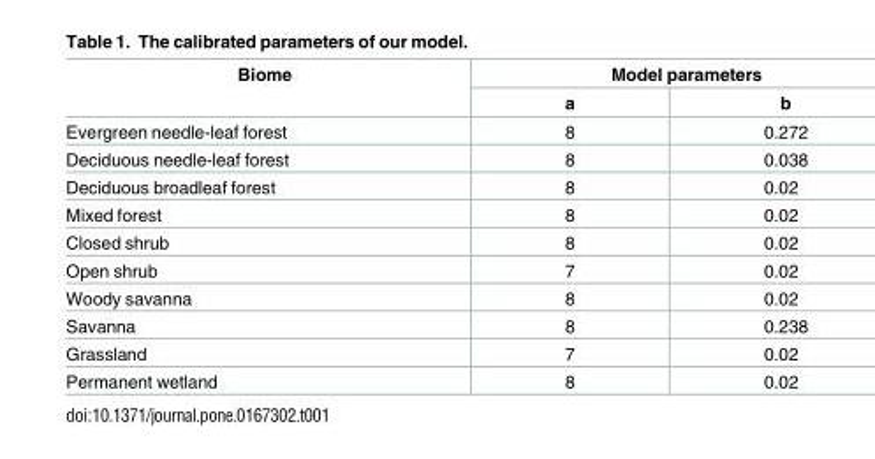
<table><thead><tr><td rowspan="2">Biome</td><td colspan="2">Model parameters</td></tr><tr><td>a</td><td>b</td></tr></thead><tbody><tr><td>Evergreen needle-leaf forest</td><td>8</td><td>0.272</td></tr><tr><td>Deciduous needle-leaf forest</td><td>8</td><td>0.038</td></tr><tr><td>Deciduous broadleaf forest</td><td>8</td><td>0.02</td></tr><tr><td>Mixed forest</td><td>8</td><td>0.02</td></tr><tr><td>Closed shrub</td><td>8</td><td>0.02</td></tr><tr><td>Open shrub</td><td>7</td><td>0.02</td></tr><tr><td>Woody savanna</td><td>8</td><td>0.02</td></tr><tr><td>Savanna</td><td>8</td><td>0.238</td></tr><tr><td>Grassland</td><td>7</td><td>0.02</td></tr><tr><td>Permanent wetland</td><td>8</td><td>0.02</td></tr></tbody></table>